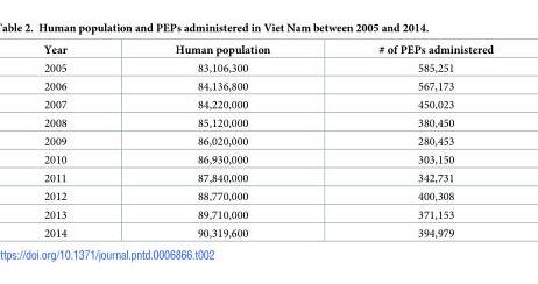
<table><thead><tr><td>Year</td><td>Human population</td><td># of PEPs administered</td></tr></thead><tbody><tr><td>2005</td><td>83,106,300</td><td>585,251</td></tr><tr><td>2006</td><td>84,136,800</td><td>567,173</td></tr><tr><td>2007</td><td>84,220,000</td><td>450,023</td></tr><tr><td>2008</td><td>85,120,000</td><td>380,450</td></tr><tr><td>2009</td><td>86,020,000</td><td>280,453</td></tr><tr><td>2010</td><td>86,930,000</td><td>303,150</td></tr><tr><td>2011</td><td>87,840,000</td><td>342,731</td></tr><tr><td>2012</td><td>88,770,000</td><td>400,308</td></tr><tr><td>2013</td><td>89,710,000</td><td>371,153</td></tr><tr><td>2014</td><td>90,319,600</td><td>394,979</td></tr></tbody></table>